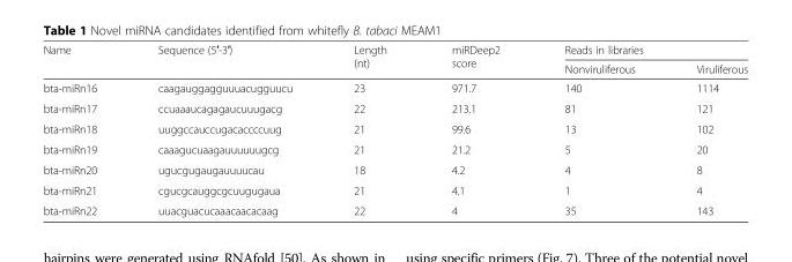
<table><thead><tr><td rowspan="2">Name</td><td rowspan="2">Sequence (5′-3′)</td><td rowspan="2">Length (nt)</td><td rowspan="2">miRDeep2 score</td><td colspan="2">Reads in libraries</td></tr><tr><td>Nonviruliferous</td><td>Viruliferous</td></tr></thead><tbody><tr><td>bta-miRn16</td><td>caagauggagguuuacugguucu</td><td>23</td><td>971.7</td><td>140</td><td>1114</td></tr><tr><td>bta-miRn17</td><td>ccuaaaucagagaucuuugacg</td><td>22</td><td>213.1</td><td>81</td><td>121</td></tr><tr><td>bta-miRn18</td><td>uuggccauccugacaccccuug</td><td>21</td><td>99.6</td><td>13</td><td>102</td></tr><tr><td>bta-miRn19</td><td>caaagucuaagauuuuuugcg</td><td>21</td><td>21.2</td><td>5</td><td>20</td></tr><tr><td>bta-miRn20</td><td>ugucgugaugauuuucau</td><td>18</td><td>4.2</td><td>4</td><td>8</td></tr><tr><td>bta-miRn21</td><td>cgucgcauggcgcuugugaua</td><td>21</td><td>4.1</td><td>1</td><td>4</td></tr><tr><td>bta-miRn22</td><td>uuacguacucaaacaacacaag</td><td>22</td><td>4</td><td>35</td><td>143</td></tr></tbody></table>